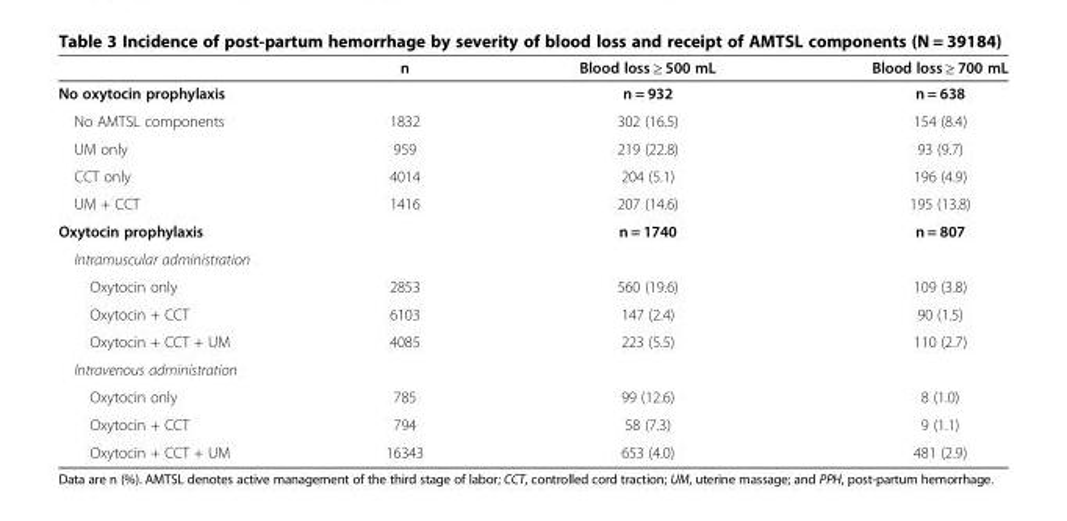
<table><thead><tr><td></td><td>n</td><td>Blood loss ≥ 500 mL</td><td>Blood loss ≥ 700 mL</td></tr></thead><tbody><tr><td>No oxytocin prophylaxis</td><td></td><td>n = 932</td><td>n = 638</td></tr><tr><td>No AMTSL components</td><td>1832</td><td>302 (16.5)</td><td>154 (8.4)</td></tr><tr><td>UM only</td><td>959</td><td>219 (22.8)</td><td>93 (9.7)</td></tr><tr><td>CCT only</td><td>4014</td><td>204 (5.1)</td><td>196 (4.9)</td></tr><tr><td>UM + CCT</td><td>1416</td><td>207 (14.6)</td><td>195 (13.8)</td></tr><tr><td>Oxytocin prophylaxis</td><td></td><td>n = 1740</td><td>n = 807</td></tr><tr><td colspan="4">Intramuscular administration</td></tr><tr><td>Oxytocin only</td><td>2853</td><td>560 (19.6)</td><td>109 (3.8)</td></tr><tr><td>Oxytocin + CCT</td><td>6103</td><td>147 (2.4)</td><td>90 (1.5)</td></tr><tr><td>Oxytocin + CCT + UM</td><td>4085</td><td>223 (5.5)</td><td>110 (2.7)</td></tr><tr><td colspan="4">Intravenous administration</td></tr><tr><td>Oxytocin only</td><td>785</td><td>99 (12.6)</td><td>8 (1.0)</td></tr><tr><td>Oxytocin + CCT</td><td>794</td><td>58 (7.3)</td><td>9 (1.1)</td></tr><tr><td>Oxytocin + CCT + UM</td><td>16343</td><td>653 (4.0)</td><td>481 (2.9)</td></tr></tbody></table>